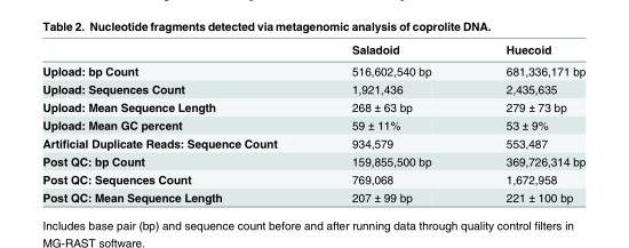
<table><thead><tr><td></td><td>Saladoid</td><td>Huecoid</td></tr></thead><tbody><tr><td>Upload: bp Count</td><td>516,602,540 bp</td><td>681,336,171 bp</td></tr><tr><td>Upload: Sequences Count</td><td>1,921,436</td><td>2,435,635</td></tr><tr><td>Upload: Mean Sequence Length</td><td>268 ± 63 bp</td><td>279 ± 73 bp</td></tr><tr><td>Upload: Mean GC percent</td><td>59 ± 11%</td><td>53 ± 9%</td></tr><tr><td>Artificial Duplicate Reads: Sequence Count</td><td>934,579</td><td>553,487</td></tr><tr><td>Post QC: bp Count</td><td>159,855,500 bp</td><td>369,726,314 bp</td></tr><tr><td>Post QC: Sequences Count</td><td>769,068</td><td>1,672,958</td></tr><tr><td>Post QC: Mean Sequence Length</td><td>207 ± 99 bp</td><td>221 ± 100 bp</td></tr></tbody></table>